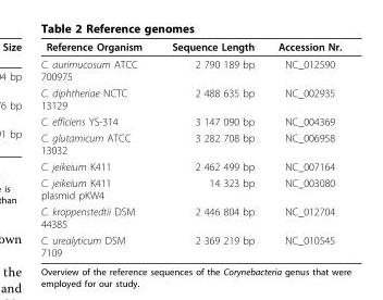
<table><thead><tr><td>Reference Organism</td><td>Sequence Length</td><td>Accession Nr.</td></tr></thead><tbody><tr><td>C. aurimucosum ATCC 700975</td><td>2 790 189 bp</td><td>NC_012590</td></tr><tr><td>C. diphtheriae NCTC 13129</td><td>2 488 635 bp</td><td>NC_002935</td></tr><tr><td>C. efficiens YS-314</td><td>3 147 090 bp</td><td>NC_004369</td></tr><tr><td>C. glutamicum ATCC 13032</td><td>3 282 708 bp</td><td>NC_006958</td></tr><tr><td>C. jeikeium K411</td><td>2 462 499 bp</td><td>NC_007164</td></tr><tr><td>C. jeikeium K411 plasmid pKW4</td><td>14 323 bp</td><td>NC_003080</td></tr><tr><td>C. kroppenstedtii DSM 44385</td><td>2 446 804 bp</td><td>NC_012704</td></tr><tr><td>C. urealyticum DSM 7109</td><td>2 369 219 bp</td><td>NC_010545</td></tr></tbody></table>